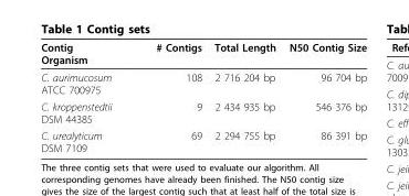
<table><thead><tr><td>Contig Organism</td><td># Contigs</td><td>Total Length</td><td>N50 Contig Size</td></tr></thead><tbody><tr><td>C. aurimucosum ATCC 700975</td><td>108</td><td>2 716 204 bp</td><td>96 704 bp</td></tr><tr><td>C. kroppenstedtii DSM 44385</td><td>9</td><td>2 434 935 bp</td><td>546 376 bp</td></tr><tr><td>C. urealyticum DSM 7109</td><td>69</td><td>2 294 755 bp</td><td>86 391 bp</td></tr></tbody></table>